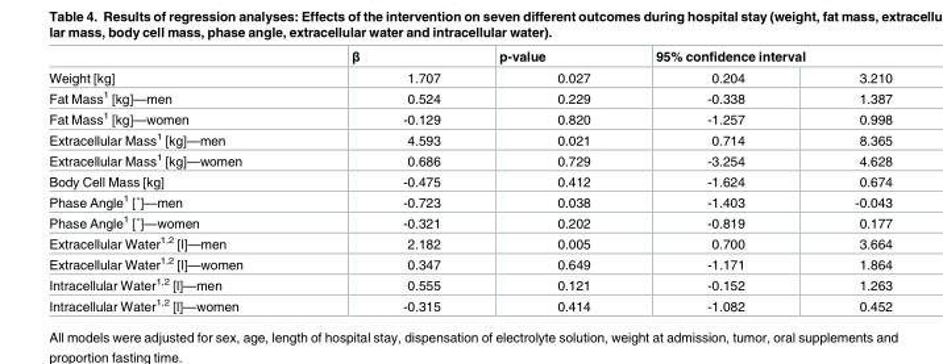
<table><thead><tr><td rowspan="2">Weight [kg]</td><td rowspan="2">β 1.707</td><td rowspan="2">p-value 0.027</td><td colspan="2">95% confidence interval</td></tr><tr><td>0.204</td><td>3.210</td></tr></thead><tbody><tr><td>Fat Mass<sup>1</sup> [kg]—men</td><td>0.524</td><td>0.229</td><td>-0.338</td><td>1.387</td></tr><tr><td>Fat Mass<sup>1</sup> [kg]—women</td><td>-0.129</td><td>0.820</td><td>-1.257</td><td>0.998</td></tr><tr><td>Extracellular Mass<sup>1</sup> [kg]—men</td><td>4.593</td><td>0.021</td><td>0.714</td><td>8.365</td></tr><tr><td>Extracellular Mass<sup>1</sup> [kg]—women</td><td>0.686</td><td>0.729</td><td>-3.254</td><td>4.628</td></tr><tr><td>Body Cell Mass [kg]</td><td>-0.475</td><td>0.412</td><td>-1.624</td><td>0.674</td></tr><tr><td>Phase Angle1 [˚]—men</td><td>-0.723</td><td>0.038</td><td>-1.403</td><td>-0.043</td></tr><tr><td>Phase Angle1 [˚]—women</td><td>-0.321</td><td>0.202</td><td>-0.819</td><td>0.177</td></tr><tr><td>Extracellular Water<sup>1,2</sup> [l]—men</td><td>2.182</td><td>0.005</td><td>0.700</td><td>3.664</td></tr><tr><td>Extracellular Water<sup>1,2</sup> [l]—women</td><td>0.347</td><td>0.649</td><td>-1.171</td><td>1.864</td></tr><tr><td>Intracellular Water<sup>1,2</sup> [l]—men</td><td>0.555</td><td>0.121</td><td>-0.152</td><td>1.263</td></tr><tr><td>Intracellular Water<sup>1,2</sup> [l]—women</td><td>-0.315</td><td>0.414</td><td>-1.082</td><td>0.452</td></tr></tbody></table>